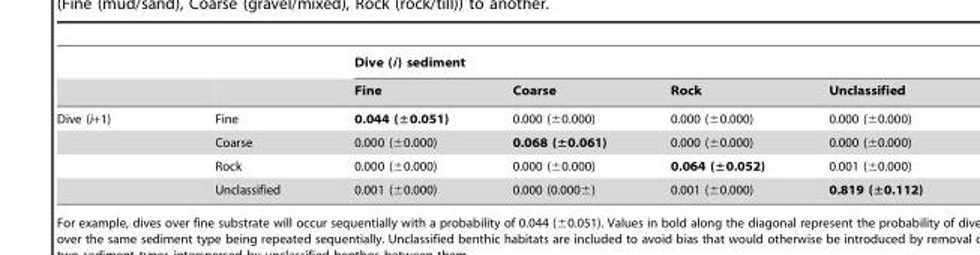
<table><thead><tr><td rowspan="2"></td><td rowspan="2"></td><td colspan="4">Dive (i) sediment</td></tr><tr><td>Fine</td><td>Coarse</td><td>Rock</td><td>Unclassified</td></tr></thead><tbody><tr><td rowspan="4">Dive (i+1)</td><td>Fine</td><td>0.044 (±0.051)</td><td>0.000 (±0.000)</td><td>0.000 (±0.000)</td><td>0.000 (±0.000)</td></tr><tr><td>Coarse</td><td>0.000 (±0.000)</td><td>0.068 (±0.061)</td><td>0.000 (±0.000)</td><td>0.000 (±0.000)</td></tr><tr><td>Rock</td><td>0.000 (±0.000)</td><td>0.000 (±0.000)</td><td>0.064 (±0.052)</td><td>0.001 (±0.000)</td></tr><tr><td>Unclassified</td><td>0.001 (±0.000)</td><td>0.000 (0.000±)</td><td>0.001 (±0.000)</td><td>0.819 (±0.112)</td></tr></tbody></table>